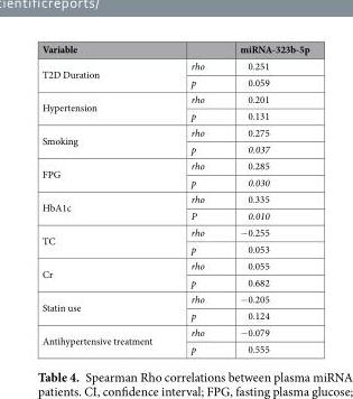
<table><thead><tr><td>Variable</td><td></td><td>miRNA-323b-5p</td></tr></thead><tbody><tr><td rowspan="2">T2D Duration</td><td>rho</td><td>0.251</td></tr><tr><td>p</td><td>0.059</td></tr><tr><td rowspan="2">Hypertension</td><td>rho</td><td>0.201</td></tr><tr><td>p</td><td>0.131</td></tr><tr><td rowspan="2">Smoking</td><td>rho</td><td>0.275</td></tr><tr><td>p</td><td>0.037</td></tr><tr><td rowspan="2">FPG</td><td>rho</td><td>0.285</td></tr><tr><td>p</td><td>0.030</td></tr><tr><td rowspan="2">HbA1c</td><td>rho</td><td>0.335</td></tr><tr><td>P</td><td>0.010</td></tr><tr><td rowspan="2">TC</td><td>rho</td><td>−0.255</td></tr><tr><td>p</td><td>0.053</td></tr><tr><td rowspan="2">Cr</td><td>rho</td><td>0.055</td></tr><tr><td>p</td><td>0.682</td></tr><tr><td rowspan="2">Statin use</td><td>rho</td><td>−0.205</td></tr><tr><td>p</td><td>0.124</td></tr><tr><td rowspan="2">Antihypertensive treatment</td><td>rho</td><td>−0.079</td></tr><tr><td>p</td><td>0.555</td></tr></tbody></table>